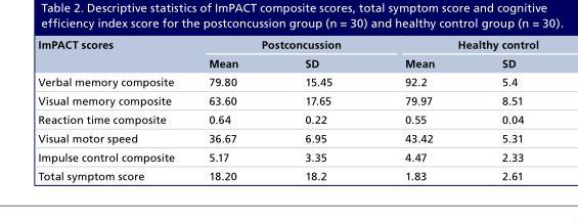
<table><thead><tr><td rowspan="2">ImPACT scores</td><td colspan="2">Postconcussion</td><td colspan="2">Healthy control</td></tr><tr><td>Mean</td><td>SD</td><td>Mean</td><td>SD</td></tr></thead><tbody><tr><td>Verbal memory composite</td><td>79.80</td><td>15.45</td><td>92.2</td><td>5.4</td></tr><tr><td>Visual memory composite</td><td>63.60</td><td>17.65</td><td>79.97</td><td>8.51</td></tr><tr><td>Reaction time composite</td><td>0.64</td><td>0.22</td><td>0.55</td><td>0.04</td></tr><tr><td>Visual motor speed</td><td>36.67</td><td>6.95</td><td>43.42</td><td>5.31</td></tr><tr><td>Impulse control composite</td><td>5.17</td><td>3.35</td><td>4.47</td><td>2.33</td></tr><tr><td>Total symptom score</td><td>18.20</td><td>18.2</td><td>1.83</td><td>2.61</td></tr></tbody></table>